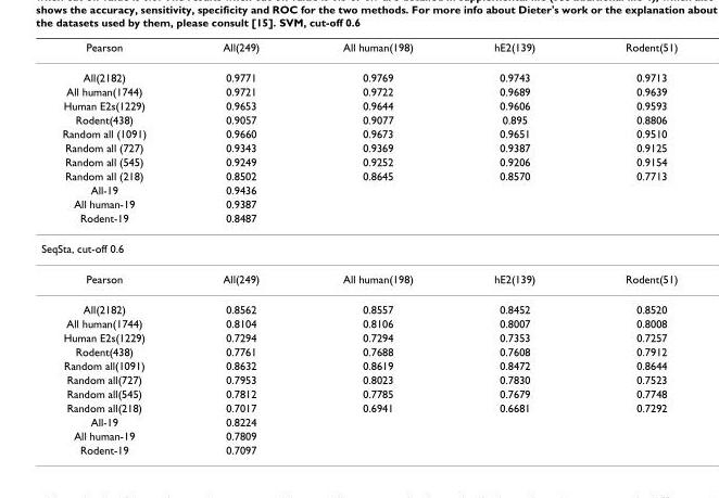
<table><thead><tr><td>Pearson</td><td>All(249)</td><td>All human(198)</td><td>hE2(139)</td><td>Rodent(51)</td></tr></thead><tbody><tr><td>All(2182)</td><td>0.9771</td><td>0.9769</td><td>0.9743</td><td>0.9713</td></tr><tr><td>All human(1744)</td><td>0.9721</td><td>0.9722</td><td>0.9689</td><td>0.9639</td></tr><tr><td>Human E2s(1229)</td><td>0.9653</td><td>0.9644</td><td>0.9606</td><td>0.9593</td></tr><tr><td>Rodent(438)</td><td>0.9057</td><td>0.9077</td><td>0.895</td><td>0.8806</td></tr><tr><td>Random all (1091)</td><td>0.9660</td><td>0.9673</td><td>0.9651</td><td>0.9510</td></tr><tr><td>Random all (727)</td><td>0.9343</td><td>0.9369</td><td>0.9387</td><td>0.9125</td></tr><tr><td>Random all (545)</td><td>0.9249</td><td>0.9252</td><td>0.9206</td><td>0.9154</td></tr><tr><td>Random all (218)</td><td>0.8502</td><td>0.8645</td><td>0.8570</td><td>0.7713</td></tr><tr><td>All-19</td><td>0.9436</td><td></td><td></td><td></td></tr><tr><td>All human-19</td><td>0.9387</td><td></td><td></td><td></td></tr><tr><td>Rodent-19</td><td>0.8487</td><td></td><td></td><td></td></tr><tr><td colspan="5">SeqSta, cut-off 0.6</td></tr><tr><td>Pearson</td><td>All(249)</td><td>All human(198)</td><td>hE2(139)</td><td>Rodent(51)</td></tr><tr><td>All(2182)</td><td>0.8562</td><td>0.8557</td><td>0.8452</td><td>0.8520</td></tr><tr><td>All human(1744)</td><td>0.8104</td><td>0.8106</td><td>0.8007</td><td>0.8008</td></tr><tr><td>Human E2s(1229)</td><td>0.7294</td><td>0.7294</td><td>0.7353</td><td>0.7257</td></tr><tr><td>Rodent(438)</td><td>0.7761</td><td>0.7688</td><td>0.7608</td><td>0.7912</td></tr><tr><td>Random all(1091)</td><td>0.8632</td><td>0.8619</td><td>0.8472</td><td>0.8644</td></tr><tr><td>Random all(727)</td><td>0.7953</td><td>0.8023</td><td>0.7830</td><td>0.7523</td></tr><tr><td>Random all(545)</td><td>0.7812</td><td>0.7785</td><td>0.7679</td><td>0.7748</td></tr><tr><td>Random all(218)</td><td>0.7017</td><td>0.6941</td><td>0.6681</td><td>0.7292</td></tr><tr><td>All-19</td><td>0.8224</td><td></td><td></td><td></td></tr><tr><td>All human-19</td><td>0.7809</td><td></td><td></td><td></td></tr><tr><td>Rodent-19</td><td>0.7097</td><td></td><td></td><td></td></tr></tbody></table>